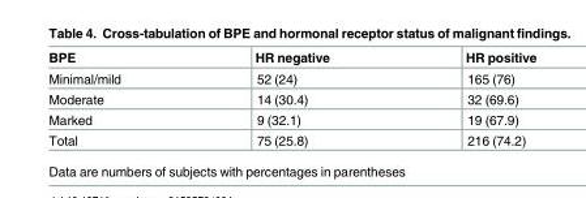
<table><thead><tr><td>BPE</td><td>HR negative</td><td>HR positive</td></tr></thead><tbody><tr><td>Minimal/mild</td><td>52 (24)</td><td>165 (76)</td></tr><tr><td>Moderate</td><td>14 (30.4)</td><td>32 (69.6)</td></tr><tr><td>Marked</td><td>9 (32.1)</td><td>19 (67.9)</td></tr><tr><td>Total</td><td>75 (25.8)</td><td>216 (74.2)</td></tr></tbody></table>